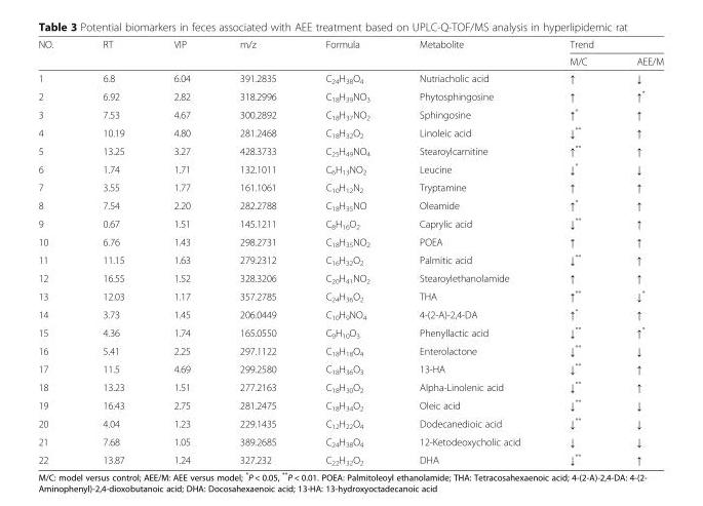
<table><thead><tr><td rowspan="2">NO.</td><td rowspan="2">RT</td><td rowspan="2">VIP</td><td rowspan="2">m/z</td><td rowspan="2">Formula</td><td rowspan="2">Metabolite</td><td colspan="2">Trend</td></tr><tr><td>M/C</td><td>AEE/M</td></tr></thead><tbody><tr><td>1</td><td>6.8</td><td>6.04</td><td>391.2835</td><td>C<sub>24</sub>H<sub>38</sub>O<sub>4</sub></td><td>Nutriacholic acid</td><td>↑</td><td>↓</td></tr><tr><td>2</td><td>6.92</td><td>2.82</td><td>318.2996</td><td>C<sub>18</sub>H<sub>39</sub>NO<sub>3</sub></td><td>Phytosphingosine</td><td>↑</td><td>↑*</td></tr><tr><td>3</td><td>7.53</td><td>4.67</td><td>300.2892</td><td>C<sub>18</sub>H<sub>37</sub>NO<sub>2</sub></td><td>Sphingosine</td><td>↑*</td><td>↑</td></tr><tr><td>4</td><td>10.19</td><td>4.80</td><td>281.2468</td><td>C<sub>18</sub>H<sub>32</sub>O<sub>2</sub></td><td>Linoleic acid</td><td>↓**</td><td>↑</td></tr><tr><td>5</td><td>13.25</td><td>3.27</td><td>428.3733</td><td>C<sub>25</sub>H<sub>49</sub>NO<sub>4</sub></td><td>Stearoylcarnitine</td><td>↑**</td><td>↑</td></tr><tr><td>6</td><td>1.74</td><td>1.71</td><td>132.1011</td><td>C<sub>6</sub>H<sub>13</sub>NO<sub>2</sub></td><td>Leucine</td><td>↓*</td><td>↓</td></tr><tr><td>7</td><td>3.55</td><td>1.77</td><td>161.1061</td><td>C<sub>10</sub>H<sub>12</sub>N<sub>2</sub></td><td>Tryptamine</td><td>↑</td><td>↑</td></tr><tr><td>8</td><td>7.54</td><td>2.20</td><td>282.2788</td><td>C<sub>18</sub>H<sub>35</sub>NO</td><td>Oleamide</td><td>↑*</td><td>↑</td></tr><tr><td>9</td><td>0.67</td><td>1.51</td><td>145.1211</td><td>C<sub>8</sub>H<sub>16</sub>O<sub>2</sub></td><td>Caprylic acid</td><td>↓**</td><td>↑</td></tr><tr><td>10</td><td>6.76</td><td>1.43</td><td>298.2731</td><td>C<sub>18</sub>H<sub>35</sub>NO<sub>2</sub></td><td>POEA</td><td>↑</td><td>↑</td></tr><tr><td>11</td><td>11.15</td><td>1.63</td><td>279.2312</td><td>C<sub>16</sub>H<sub>32</sub>O<sub>2</sub></td><td>Palmitic acid</td><td>↓**</td><td>↑</td></tr><tr><td>12</td><td>16.55</td><td>1.52</td><td>328.3206</td><td>C<sub>20</sub>H<sub>41</sub>NO<sub>2</sub></td><td>Stearoylethanolamide</td><td>↑</td><td>↑</td></tr><tr><td>13</td><td>12.03</td><td>1.17</td><td>357.2785</td><td>C<sub>24</sub>H<sub>36</sub>O<sub>2</sub></td><td>THA</td><td>↑**</td><td>↓*</td></tr><tr><td>14</td><td>3.73</td><td>1.45</td><td>206.0449</td><td>C<sub>10</sub>H<sub>9</sub>NO<sub>4</sub></td><td>4-(2-A)-2,4-DA</td><td>↑*</td><td>↑</td></tr><tr><td>15</td><td>4.36</td><td>1.74</td><td>165.0550</td><td>C<sub>9</sub>H<sub>10</sub>O<sub>3</sub></td><td>Phenyllactic acid</td><td>↓**</td><td>↑*</td></tr><tr><td>16</td><td>5.41</td><td>2.25</td><td>297.1122</td><td>C<sub>18</sub>H<sub>18</sub>O<sub>4</sub></td><td>Enterolactone</td><td>↓**</td><td>↓</td></tr><tr><td>17</td><td>11.5</td><td>4.69</td><td>299.2580</td><td>C<sub>18</sub>H<sub>36</sub>O<sub>3</sub></td><td>13-HA</td><td>↓**</td><td>↑</td></tr><tr><td>18</td><td>13.23</td><td>1.51</td><td>277.2163</td><td>C<sub>18</sub>H<sub>30</sub>O<sub>2</sub></td><td>Alpha-Linolenic acid</td><td>↓**</td><td>↑</td></tr><tr><td>19</td><td>16.43</td><td>2.75</td><td>281.2475</td><td>C<sub>18</sub>H<sub>34</sub>O<sub>2</sub></td><td>Oleic acid</td><td>↓**</td><td>↓</td></tr><tr><td>20</td><td>4.04</td><td>1.23</td><td>229.1435</td><td>C<sub>12</sub>H<sub>22</sub>O<sub>4</sub></td><td>Dodecanedioic acid</td><td>↓**</td><td>↓</td></tr><tr><td>21</td><td>7.68</td><td>1.05</td><td>389.2685</td><td>C<sub>24</sub>H<sub>38</sub>O<sub>4</sub></td><td>12-Ketodeoxycholic acid</td><td>↓</td><td>↓</td></tr><tr><td>22</td><td>13.87</td><td>1.24</td><td>327.232</td><td>C<sub>22</sub>H<sub>32</sub>O<sub>2</sub></td><td>DHA</td><td>↓**</td><td>↑</td></tr></tbody></table>